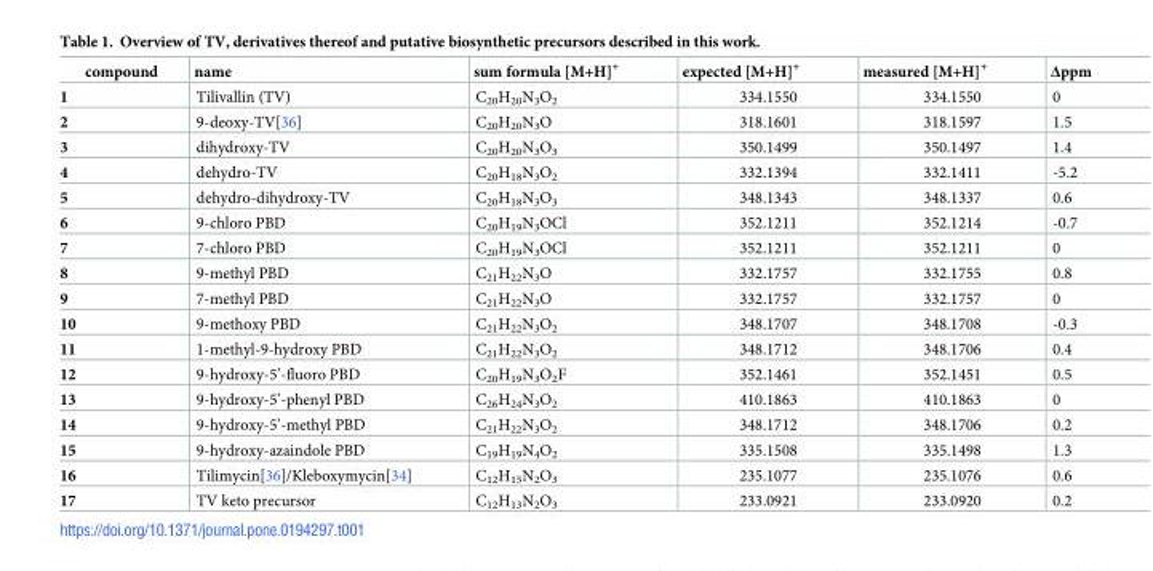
<table><thead><tr><td>compound</td><td>name</td><td>sum formula [M+H]<sup>+</sup></td><td>expected [M+H]<sup>+</sup></td><td>measured [M+H]<sup>+</sup></td><td>Δppm</td></tr></thead><tbody><tr><td>1</td><td>Tilivallin (TV)</td><td>C<sub>20</sub>H<sub>20</sub>N<sub>3</sub>O<sub>2</sub></td><td>334.1550</td><td>334.1550</td><td>0</td></tr><tr><td>2</td><td>9-deoxy-TV[36]</td><td>C<sub>20</sub>H<sub>20</sub>N<sub>3</sub>O</td><td>318.1601</td><td>318.1597</td><td>1.5</td></tr><tr><td>3</td><td>dihydroxy-TV</td><td>C<sub>20</sub>H<sub>20</sub>N<sub>3</sub>O<sub>3</sub></td><td>350.1499</td><td>350.1497</td><td>1.4</td></tr><tr><td>4</td><td>dehydro-TV</td><td>C<sub>20</sub>H<sub>18</sub>N<sub>3</sub>O<sub>2</sub></td><td>332.1394</td><td>332.1411</td><td>-5.2</td></tr><tr><td>5</td><td>dehydro-dihydroxy-TV</td><td>C<sub>20</sub>H<sub>18</sub>N<sub>3</sub>O<sub>3</sub></td><td>348.1343</td><td>348.1337</td><td>0.6</td></tr><tr><td>6</td><td>9-chloro PBD</td><td>C<sub>20</sub>H<sub>19</sub>N<sub>3</sub>OCl</td><td>352.1211</td><td>352.1214</td><td>-0.7</td></tr><tr><td>7</td><td>7-chloro PBD</td><td>C<sub>20</sub>H<sub>19</sub>N<sub>3</sub>OCl</td><td>352.1211</td><td>352.1211</td><td>0</td></tr><tr><td>8</td><td>9-methyl PBD</td><td>C<sub>21</sub>H<sub>22</sub>N<sub>3</sub>O</td><td>332.1757</td><td>332.1755</td><td>0.8</td></tr><tr><td>9</td><td>7-methyl PBD</td><td>C<sub>21</sub>H<sub>22</sub>N<sub>3</sub>O</td><td>332.1757</td><td>332.1757</td><td>0</td></tr><tr><td>10</td><td>9-methoxy PBD</td><td>C<sub>21</sub>H<sub>22</sub>N<sub>3</sub>O<sub>2</sub></td><td>348.1707</td><td>348.1708</td><td>-0.3</td></tr><tr><td>11</td><td>1-methyl-9-hydroxy PBD</td><td>C<sub>21</sub>H<sub>22</sub>N<sub>3</sub>O<sub>2</sub></td><td>348.1712</td><td>348.1706</td><td>0.4</td></tr><tr><td>12</td><td>9-hydroxy-5’-fluoro PBD</td><td>C<sub>20</sub>H<sub>19</sub>N<sub>3</sub>O<sub>2</sub>F</td><td>352.1461</td><td>352.1451</td><td>0.5</td></tr><tr><td>13</td><td>9-hydroxy-5’-phenyl PBD</td><td>C<sub>26</sub>H<sub>24</sub>N<sub>3</sub>O<sub>2</sub></td><td>410.1863</td><td>410.1863</td><td>0</td></tr><tr><td>14</td><td>9-hydroxy-5’-methyl PBD</td><td>C<sub>21</sub>H<sub>22</sub>N<sub>3</sub>O<sub>2</sub></td><td>348.1712</td><td>348.1706</td><td>0.2</td></tr><tr><td>15</td><td>9-hydroxy-azaindole PBD</td><td>C<sub>19</sub>H<sub>19</sub>N<sub>4</sub>O<sub>2</sub></td><td>335.1508</td><td>335.1498</td><td>1.3</td></tr><tr><td>16</td><td>Tilimycin[36]/Kleboxymycin[34]</td><td>C<sub>12</sub>H<sub>15</sub>N<sub>2</sub>O<sub>3</sub></td><td>235.1077</td><td>235.1076</td><td>0.6</td></tr><tr><td>17</td><td>TV keto precursor</td><td>C<sub>12</sub>H<sub>13</sub>N<sub>2</sub>O<sub>3</sub></td><td>233.0921</td><td>233.0920</td><td>0.2</td></tr></tbody></table>